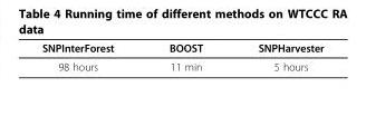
<table><thead><tr><td>SNPInterForest</td><td>BOOST</td><td>SNPHarvester</td></tr></thead><tbody><tr><td>98 hours</td><td>11 min</td><td>5 hours</td></tr></tbody></table>